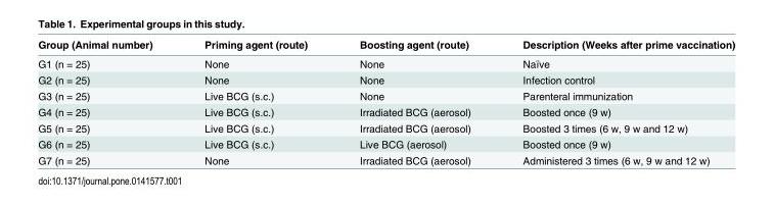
<table><thead><tr><td>Group (Animal number)</td><td>Priming agent (route)</td><td>Boosting agent (route)</td><td>Description (Weeks after prime vaccination)</td></tr></thead><tbody><tr><td>G1 (n = 25)</td><td>None</td><td>None</td><td>Naïve</td></tr><tr><td>G2 (n = 25)</td><td>None</td><td>None</td><td>Infection control</td></tr><tr><td>G3 (n = 25)</td><td>Live BCG (s.c.)</td><td>None</td><td>Parenteral immunization</td></tr><tr><td>G4 (n = 25)</td><td>Live BCG (s.c.)</td><td>Irradiated BCG (aerosol)</td><td>Boosted once (9 w)</td></tr><tr><td>G5 (n = 25)</td><td>Live BCG (s.c.)</td><td>Irradiated BCG (aerosol)</td><td>Boosted 3 times (6 w, 9 w and 12 w)</td></tr><tr><td>G6 (n = 25)</td><td>Live BCG (s.c.)</td><td>Live BCG (aerosol)</td><td>Boosted once (9 w)</td></tr><tr><td>G7 (n = 25)</td><td>None</td><td>Irradiated BCG (aerosol)</td><td>Administered 3 times (6 w, 9 w and 12 w)</td></tr></tbody></table>